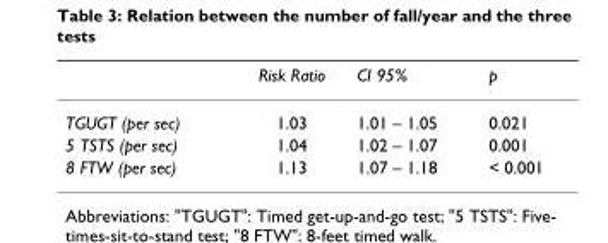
<table><thead><tr><td></td><td>Risk Ratio</td><td>CI 95%</td><td>p</td></tr></thead><tbody><tr><td>TGUGT (per sec)</td><td>1.03</td><td>1.01 – 1.05</td><td>0.021</td></tr><tr><td>5 TSTS (per sec)</td><td>1.04</td><td>1.02 – 1.07</td><td>0.001</td></tr><tr><td>8 FTW (per sec)</td><td>1.13</td><td>1.07 – 1.18</td><td>&lt; 0.001</td></tr></tbody></table>